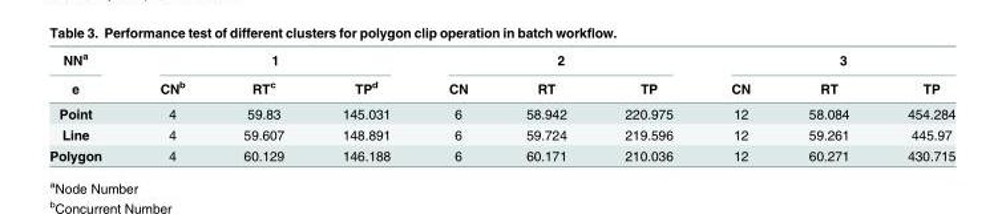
<table><thead><tr><td rowspan="2">NN<sup>a</sup> e</td><td colspan="3">1</td><td colspan="3">2</td><td colspan="3">3</td></tr><tr><td>CN<sup>b</sup></td><td>RT<sup>c</sup></td><td>TP<sup>d</sup></td><td>CN</td><td>RT</td><td>TP</td><td>CN</td><td>RT</td><td>TP</td></tr></thead><tbody><tr><td>Point</td><td>4</td><td>59.83</td><td>145.031</td><td>6</td><td>58.942</td><td>220.975</td><td>12</td><td>58.084</td><td>454.284</td></tr><tr><td>Line</td><td>4</td><td>59.607</td><td>148.891</td><td>6</td><td>59.724</td><td>219.596</td><td>12</td><td>59.261</td><td>445.97</td></tr><tr><td>Polygon</td><td>4</td><td>60.129</td><td>146.188</td><td>6</td><td>60.171</td><td>210.036</td><td>12</td><td>60.271</td><td>430.715</td></tr></tbody></table>